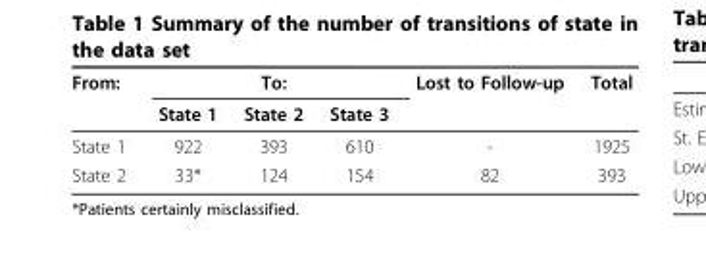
<table><thead><tr><td rowspan="2">From:</td><td colspan="3">To:</td><td rowspan="2">Lost to Follow-up</td><td rowspan="2">Total</td></tr><tr><td>State 1</td><td>State 2</td><td>State 3</td></tr></thead><tbody><tr><td>State 1</td><td>922</td><td>393</td><td>610</td><td>-</td><td>1925</td></tr><tr><td>State 2</td><td>33*</td><td>124</td><td>154</td><td>82</td><td>393</td></tr></tbody></table>